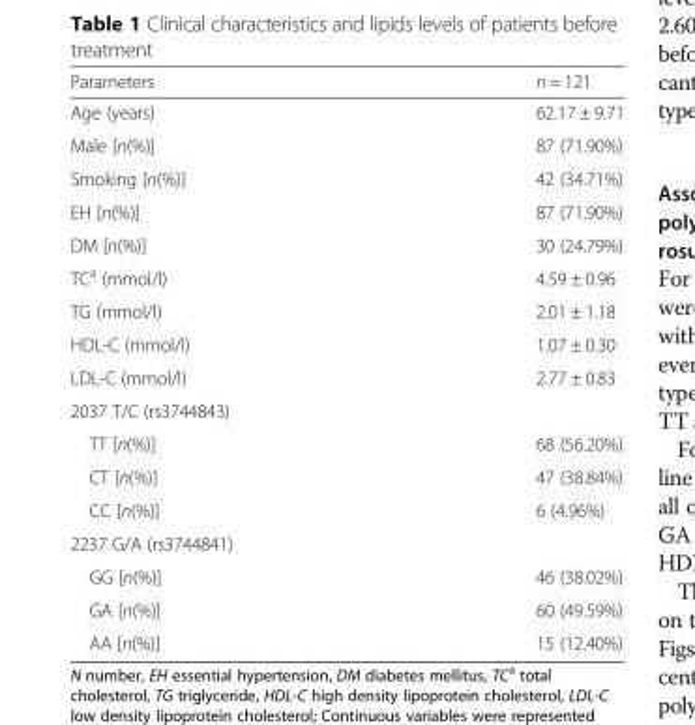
<table><thead><tr><td>Parameters</td><td>n = 121</td></tr></thead><tbody><tr><td>Age (years)</td><td>62.17 ± 9.71</td></tr><tr><td>Male [n(%)]</td><td>87 (71.90%)</td></tr><tr><td>Smoking [n(%)]</td><td>42 (34.71%)</td></tr><tr><td>EH [n(%)]</td><td>87 (71.90%)</td></tr><tr><td>DM [n(%)]</td><td>30 (24.79%)</td></tr><tr><td>TC<sup>a</sup> (mmol/l)</td><td>4.59 ± 0.96</td></tr><tr><td>TG (mmol/l)</td><td>2.01 ± 1.18</td></tr><tr><td>HDL-C (mmol/l)</td><td>1.07 ± 0.30</td></tr><tr><td>LDL-C (mmol/l)</td><td>2.77 ± 0.83</td></tr><tr><td colspan="2">2037 T/C (rs3744843)</td></tr><tr><td>TT [n(%)]</td><td>68 (56.20%)</td></tr><tr><td>CT [n(%)]</td><td>47 (38.84%)</td></tr><tr><td>CC [n(%)]</td><td>6 (4.96%)</td></tr><tr><td colspan="2">2237 G/A (rs3744841)</td></tr><tr><td>GG [n(%)]</td><td>46 (38.02%)</td></tr><tr><td>GA [n(%)]</td><td>60 (49.59%)</td></tr><tr><td>AA [n(%)]</td><td>15 (12.40%)</td></tr></tbody></table>